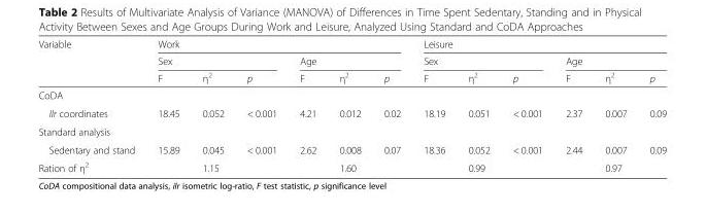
<table><thead><tr><td rowspan="3">Variable</td><td colspan="6">Work</td><td colspan="6">Leisure</td></tr><tr><td colspan="3">Sex</td><td colspan="3">Age</td><td colspan="3">Sex</td><td colspan="3">Age</td></tr><tr><td>F</td><td>η<sup>2</sup></td><td>p</td><td>F</td><td>η<sup>2</sup></td><td>p</td><td>F</td><td>η<sup>2</sup></td><td>p</td><td>F</td><td>η<sup>2</sup></td><td>p</td></tr></thead><tbody><tr><td colspan="13">CoDA</td></tr><tr><td>Ilr coordinates</td><td>18.45</td><td>0.052</td><td>&lt; 0.001</td><td>4.21</td><td>0.012</td><td>0.02</td><td>18.19</td><td>0.051</td><td>&lt; 0.001</td><td>2.37</td><td>0.007</td><td>0.09</td></tr><tr><td colspan="13">Standard analysis</td></tr><tr><td>Sedentary and stand</td><td>15.89</td><td>0.045</td><td>&lt; 0.001</td><td>2.62</td><td>0.008</td><td>0.07</td><td>18.36</td><td>0.052</td><td>&lt; 0.001</td><td>2.44</td><td>0.007</td><td>0.09</td></tr><tr><td>Ration of η<sup>2</sup></td><td></td><td>1.15</td><td></td><td></td><td>1.60</td><td></td><td></td><td>0.99</td><td></td><td></td><td>0.97</td><td></td></tr></tbody></table>